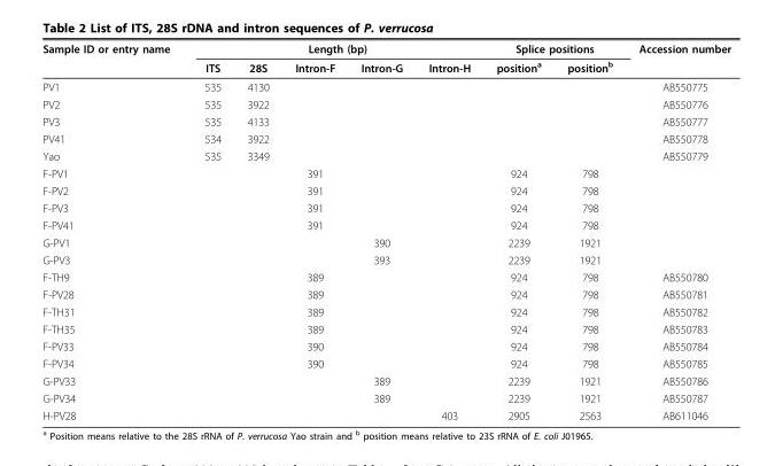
<table><tbody><tr><td rowspan="2">Sample ID or entry name</td><td colspan="5">Length (bp)</td><td colspan="2">Splice positions</td><td>Accession number</td></tr><tr><td>ITS</td><td>28S</td><td>Intron-F</td><td>Intron-G</td><td>Intron-H</td><td>position<sup>a</sup></td><td>position<sup>b</sup></td><td></td></tr><tr><td>PV1</td><td>535</td><td>4130</td><td></td><td></td><td></td><td></td><td></td><td>AB550775</td></tr><tr><td>PV2</td><td>535</td><td>3922</td><td></td><td></td><td></td><td></td><td></td><td>AB550776</td></tr><tr><td>PV3</td><td>535</td><td>4133</td><td></td><td></td><td></td><td></td><td></td><td>AB550777</td></tr><tr><td>PV41</td><td>534</td><td>3922</td><td></td><td></td><td></td><td></td><td></td><td>AB550778</td></tr><tr><td>Yao</td><td>535</td><td>3349</td><td></td><td></td><td></td><td></td><td></td><td>AB550779</td></tr><tr><td>F-PV1</td><td></td><td></td><td>391</td><td></td><td></td><td>924</td><td>798</td><td></td></tr><tr><td>F-PV2</td><td></td><td></td><td>391</td><td></td><td></td><td>924</td><td>798</td><td></td></tr><tr><td>F-PV3</td><td></td><td></td><td>391</td><td></td><td></td><td>924</td><td>798</td><td></td></tr><tr><td>F-PV41</td><td></td><td></td><td>391</td><td></td><td></td><td>924</td><td>798</td><td></td></tr><tr><td>G-PV1</td><td></td><td></td><td></td><td>390</td><td></td><td>2239</td><td>1921</td><td></td></tr><tr><td>G-PV3</td><td></td><td></td><td></td><td>393</td><td></td><td>2239</td><td>1921</td><td></td></tr><tr><td>F-TH9</td><td></td><td></td><td>389</td><td></td><td></td><td>924</td><td>798</td><td>AB550780</td></tr><tr><td>F-PV28</td><td></td><td></td><td>389</td><td></td><td></td><td>924</td><td>798</td><td>AB550781</td></tr><tr><td>F-TH31</td><td></td><td></td><td>389</td><td></td><td></td><td>924</td><td>798</td><td>AB550782</td></tr><tr><td>F-TH35</td><td></td><td></td><td>389</td><td></td><td></td><td>924</td><td>798</td><td>AB550783</td></tr><tr><td>F-PV33</td><td></td><td></td><td>390</td><td></td><td></td><td>924</td><td>798</td><td>AB550784</td></tr><tr><td>F-PV34</td><td></td><td></td><td>390</td><td></td><td></td><td>924</td><td>798</td><td>AB550785</td></tr><tr><td>G-PV33</td><td></td><td></td><td></td><td>389</td><td></td><td>2239</td><td>1921</td><td>AB550786</td></tr><tr><td>G-PV34</td><td></td><td></td><td></td><td>389</td><td></td><td>2239</td><td>1921</td><td>AB550787</td></tr><tr><td>H-PV28</td><td></td><td></td><td></td><td></td><td>403</td><td>2905</td><td>2563</td><td>AB611046</td></tr></tbody></table>